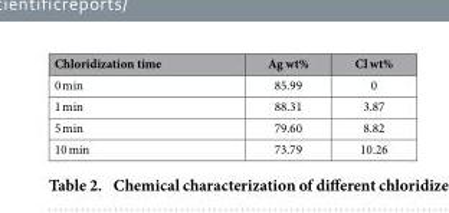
<table><thead><tr><td>Chloridization time</td><td>Ag wt%</td><td>Cl wt%</td></tr></thead><tbody><tr><td>0 min</td><td>85.99</td><td>0</td></tr><tr><td>1 min</td><td>88.31</td><td>3.87</td></tr><tr><td>5 min</td><td>79.60</td><td>8.82</td></tr><tr><td>10 min</td><td>73.79</td><td>10.26</td></tr></tbody></table>